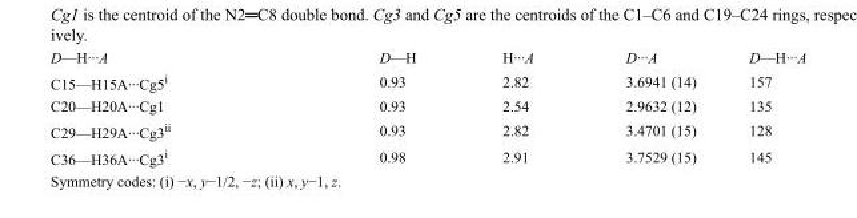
<table><tbody><tr><td>D—H···A</td><td>D—H</td><td>H···A</td><td>D···A</td><td>D—H···A</td></tr><tr><td>C15—H15A···Cg5<sup>i</sup></td><td>0.93</td><td>2.82</td><td>3.6941 (14)</td><td>157</td></tr><tr><td>C20—H20A···Cg1</td><td>0.93</td><td>2.54</td><td>2.9632 (12)</td><td>135</td></tr><tr><td>C29—H29A···Cg3<sup>ii</sup></td><td>0.93</td><td>2.82</td><td>3.4701 (15)</td><td>128</td></tr><tr><td>C36—H36A···Cg3<sup>i</sup></td><td>0.98</td><td>2.91</td><td>3.7529 (15)</td><td>145</td></tr></tbody></table>